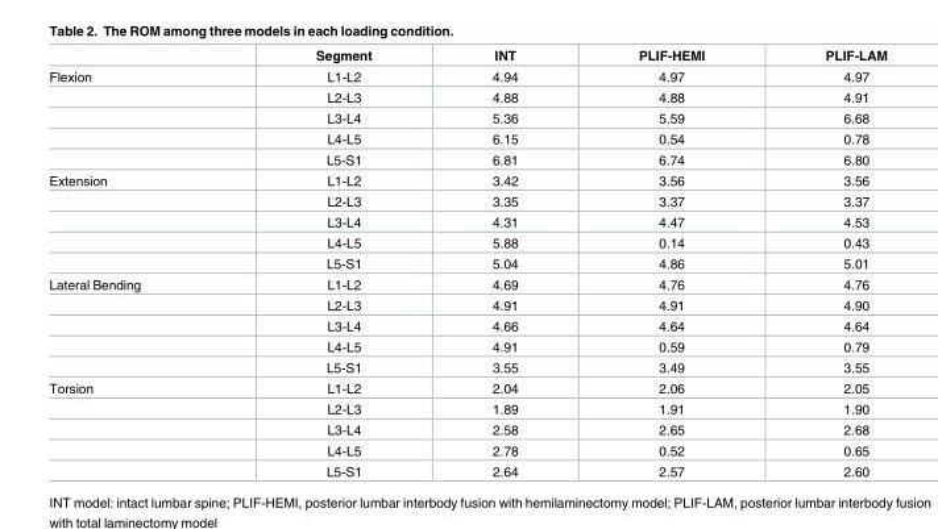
<table><thead><tr><td></td><td>Segment</td><td>INT</td><td>PLIF-HEMI</td><td>PLIF-LAM</td></tr></thead><tbody><tr><td rowspan="5">Flexion</td><td>L1-L2</td><td>4.94</td><td>4.97</td><td>4.97</td></tr><tr><td>L2-L3</td><td>4.88</td><td>4.88</td><td>4.91</td></tr><tr><td>L3-L4</td><td>5.36</td><td>5.59</td><td>6.68</td></tr><tr><td>L4-L5</td><td>6.15</td><td>0.54</td><td>0.78</td></tr><tr><td>L5-S1</td><td>6.81</td><td>6.74</td><td>6.80</td></tr><tr><td rowspan="5">Extension</td><td>L1-L2</td><td>3.42</td><td>3.56</td><td>3.56</td></tr><tr><td>L2-L3</td><td>3.35</td><td>3.37</td><td>3.37</td></tr><tr><td>L3-L4</td><td>4.31</td><td>4.47</td><td>4.53</td></tr><tr><td>L4-L5</td><td>5.88</td><td>0.14</td><td>0.43</td></tr><tr><td>L5-S1</td><td>5.04</td><td>4.86</td><td>5.01</td></tr><tr><td rowspan="5">Lateral Bending</td><td>L1-L2</td><td>4.69</td><td>4.76</td><td>4.76</td></tr><tr><td>L2-L3</td><td>4.91</td><td>4.91</td><td>4.90</td></tr><tr><td>L3-L4</td><td>4.66</td><td>4.64</td><td>4.64</td></tr><tr><td>L4-L5</td><td>4.91</td><td>0.59</td><td>0.79</td></tr><tr><td>L5-S1</td><td>3.55</td><td>3.49</td><td>3.55</td></tr><tr><td rowspan="5">Torsion</td><td>L1-L2</td><td>2.04</td><td>2.06</td><td>2.05</td></tr><tr><td>L2-L3</td><td>1.89</td><td>1.91</td><td>1.90</td></tr><tr><td>L3-L4</td><td>2.58</td><td>2.65</td><td>2.68</td></tr><tr><td>L4-L5</td><td>2.78</td><td>0.52</td><td>0.65</td></tr><tr><td>L5-S1</td><td>2.64</td><td>2.57</td><td>2.60</td></tr></tbody></table>